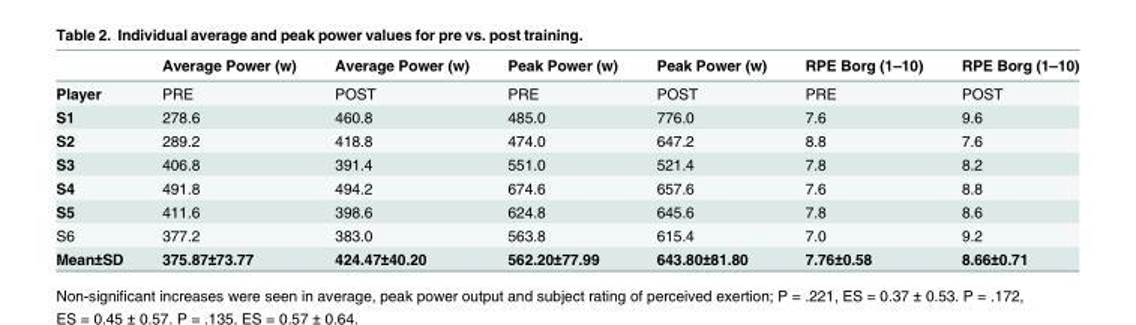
<table><thead><tr><td></td><td>Average Power (w)</td><td>Average Power (w)</td><td>Peak Power (w)</td><td>Peak Power (w)</td><td>RPE Borg (1–10)</td><td>RPE Borg (1–10)</td></tr></thead><tbody><tr><td>Player</td><td>PRE</td><td>POST</td><td>PRE</td><td>POST</td><td>PRE</td><td>POST</td></tr><tr><td>S1</td><td>278.6</td><td>460.8</td><td>485.0</td><td>776.0</td><td>7.6</td><td>9.6</td></tr><tr><td>S2</td><td>289.2</td><td>418.8</td><td>474.0</td><td>647.2</td><td>8.8</td><td>7.6</td></tr><tr><td>S3</td><td>406.8</td><td>391.4</td><td>551.0</td><td>521.4</td><td>7.8</td><td>8.2</td></tr><tr><td>S4</td><td>491.8</td><td>494.2</td><td>674.6</td><td>657.6</td><td>7.6</td><td>8.8</td></tr><tr><td>S5</td><td>411.6</td><td>398.6</td><td>624.8</td><td>645.6</td><td>7.8</td><td>8.6</td></tr><tr><td>S6</td><td>377.2</td><td>383.0</td><td>563.8</td><td>615.4</td><td>7.0</td><td>9.2</td></tr><tr><td>Mean±SD</td><td>375.87±73.77</td><td>424.47±40.20</td><td>562.20±77.99</td><td>643.80±81.80</td><td>7.76±0.58</td><td>8.66±0.71</td></tr></tbody></table>